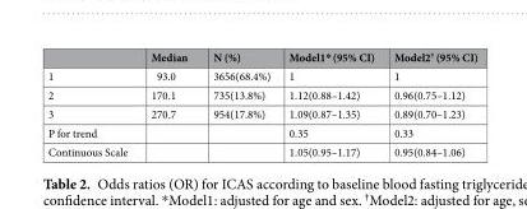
<table><thead><tr><td></td><td>Median</td><td>N (%)</td><td>Model1* (95% CI)</td><td>Model2<sup>†</sup> (95% CI)</td></tr></thead><tbody><tr><td>1</td><td>93.0</td><td>3656(68.4%)</td><td>1</td><td>1</td></tr><tr><td>2</td><td>170.1</td><td>735(13.8%)</td><td>1.12(0.88–1.42)</td><td>0.96(0.75–1.12)</td></tr><tr><td>3</td><td>270.7</td><td>954(17.8%)</td><td>1.09(0.87–1.35)</td><td>0.89(0.70–1.23)</td></tr><tr><td>P for trend</td><td></td><td></td><td>0.35</td><td>0.33</td></tr><tr><td>Continuous Scale</td><td></td><td></td><td>1.05(0.95–1.17)</td><td>0.95(0.84–1.06)</td></tr></tbody></table>